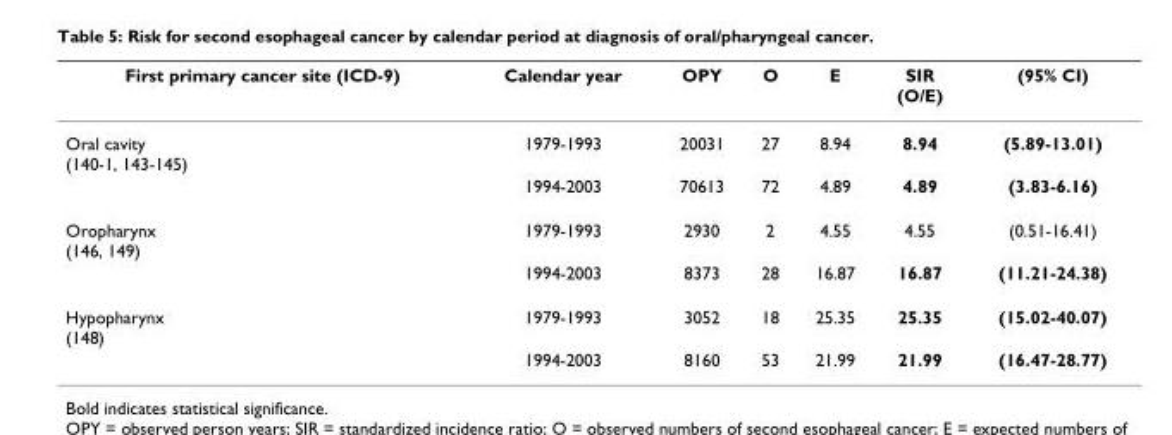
<table><thead><tr><td>First primary cancer site (ICD-9)</td><td>Calendar year</td><td>OPY</td><td>O</td><td>E</td><td>SIR (O/E)</td><td>(95% CI)</td></tr></thead><tbody><tr><td rowspan="2">Oral cavity (140-1, 143-145)</td><td>1979-1993</td><td>20031</td><td>27</td><td>8.94</td><td>8.94</td><td>(5.89-13.01)</td></tr><tr><td>1994-2003</td><td>70613</td><td>72</td><td>4.89</td><td>4.89</td><td>(3.83-6.16)</td></tr><tr><td rowspan="2">Oropharynx (146, 149)</td><td>1979-1993</td><td>2930</td><td>2</td><td>4.55</td><td>4.55</td><td>(0.51-16.41)</td></tr><tr><td>1994-2003</td><td>8373</td><td>28</td><td>16.87</td><td>16.87</td><td>(11.21-24.38)</td></tr><tr><td rowspan="2">Hypopharynx (148)</td><td>1979-1993</td><td>3052</td><td>18</td><td>25.35</td><td>25.35</td><td>(15.02-40.07)</td></tr><tr><td>1994-2003</td><td>8160</td><td>53</td><td>21.99</td><td>21.99</td><td>(16.47-28.77)</td></tr></tbody></table>